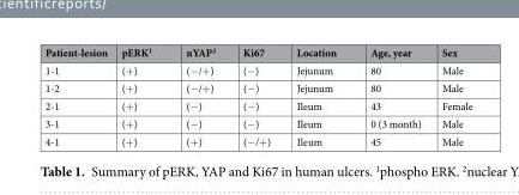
<table><thead><tr><td>Patient-lesion</td><td>pERK<sup>1</sup></td><td>nYAP<sup>2</sup></td><td>Ki67</td><td>Location</td><td>Age, year</td><td>Sex</td></tr></thead><tbody><tr><td>1-1</td><td>(+)</td><td>(−/+)</td><td>(−)</td><td>Jejunum</td><td>80</td><td>Male</td></tr><tr><td>1-2</td><td>(+)</td><td>(−/+)</td><td>(−)</td><td>Jejunum</td><td>80</td><td>Male</td></tr><tr><td>2-1</td><td>(+)</td><td>(−)</td><td>(−)</td><td>Ileum</td><td>43</td><td>Female</td></tr><tr><td>3-1</td><td>(+)</td><td>(−)</td><td>(−)</td><td>Ileum</td><td>0 (3 month)</td><td>Male</td></tr><tr><td>4-1</td><td>(+)</td><td>(+)</td><td>(−/+)</td><td>Ileum</td><td>45</td><td>Male</td></tr></tbody></table>